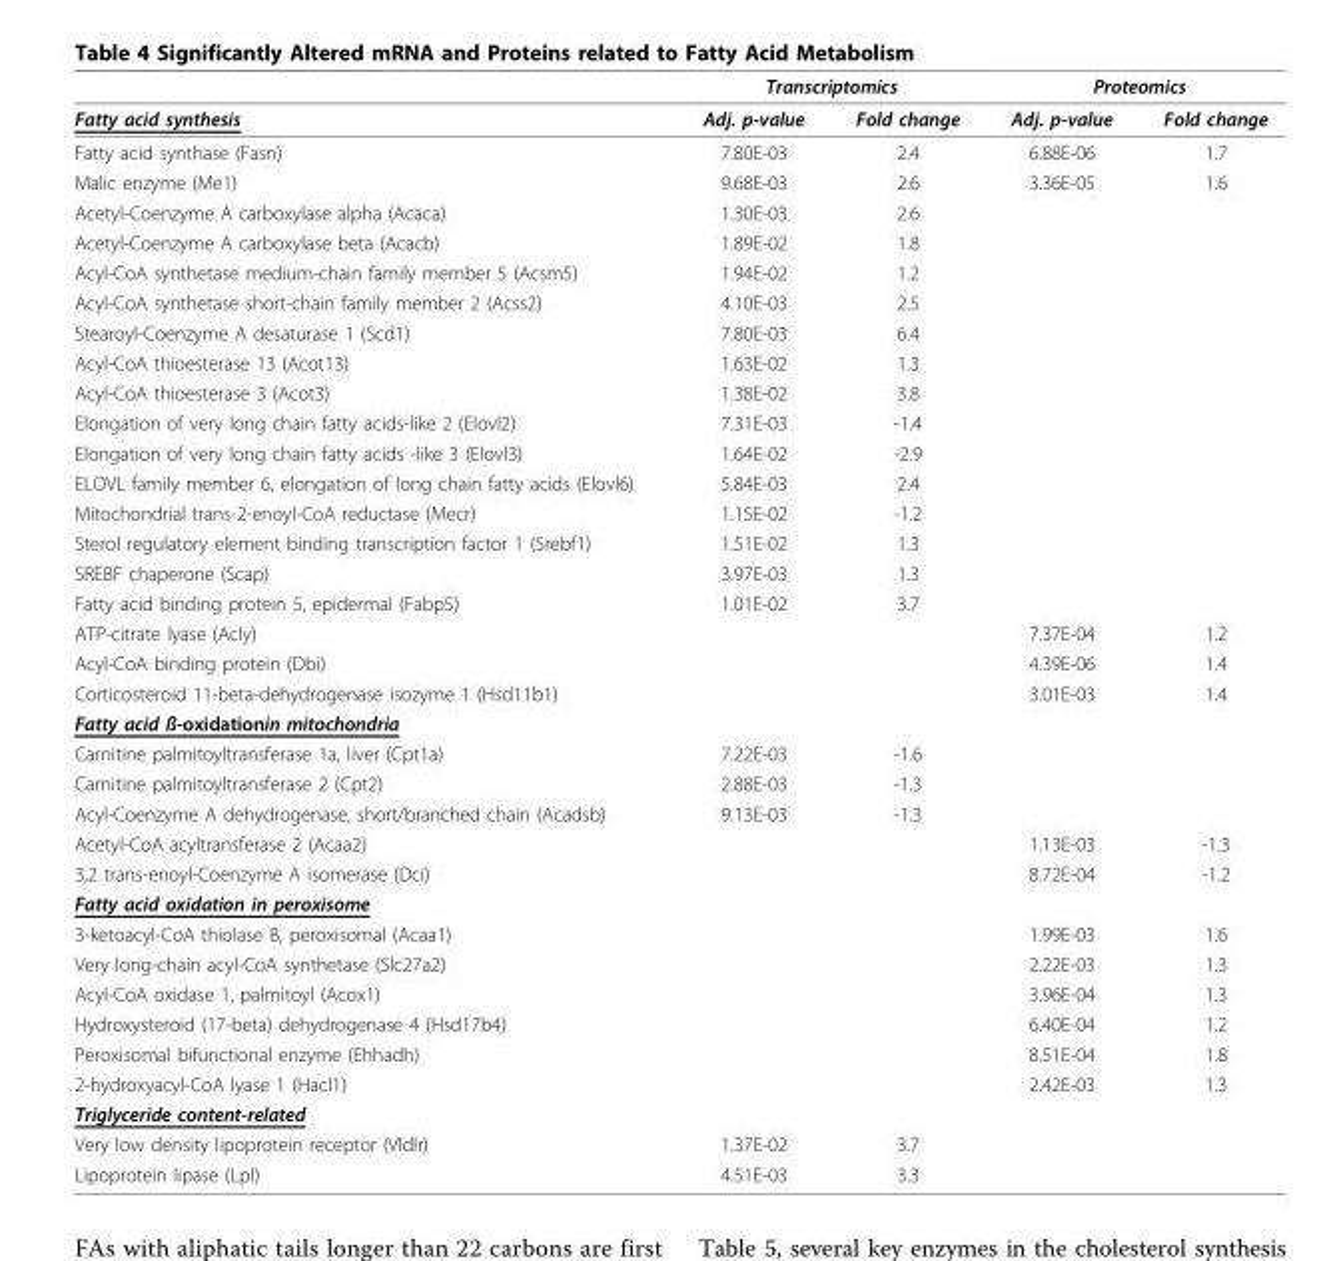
<table><thead><tr><td rowspan="2">Fatty acid synthesis</td><td colspan="2">Transcriptomics</td><td colspan="2">Proteomics</td></tr><tr><td>Adj. p-value</td><td>Fold change</td><td>Adj. p-value</td><td>Fold change</td></tr></thead><tbody><tr><td>Fatty acid synthase (Fasn)</td><td>7.80E-03</td><td>2.4</td><td>6.88E-06</td><td>1.7</td></tr><tr><td>Malic enzyme (Me1)</td><td>9.68E-03</td><td>2.6</td><td>3.36E-05</td><td>1.6</td></tr><tr><td>Acetyl-Coenzyme A carboxylase alpha (Acaca)</td><td>1.30E-03</td><td>2.6</td><td></td><td></td></tr><tr><td>Acetyl-Coenzyme A carboxylase beta (Acacb)</td><td>1.89E-02</td><td>1.8</td><td></td><td></td></tr><tr><td>Acyl-CoA synthetase medium-chain family member 5 (Acsm5)</td><td>1.94E-02</td><td>1.2</td><td></td><td></td></tr><tr><td>Acyl-CoA synthetase short-chain family member 2 (Acss2)</td><td>4.10E-03</td><td>2.5</td><td></td><td></td></tr><tr><td>Stearoyl-Coenzyme A desaturase 1 (Scd1)</td><td>7.80E-03</td><td>6.4</td><td></td><td></td></tr><tr><td>Acyl-CoA thioesterase 13 (Acot13)</td><td>1.63E-02</td><td>1.3</td><td></td><td></td></tr><tr><td>Acyl-CoA thioesterase 3 (Acot3)</td><td>1.38E-02</td><td>3.8</td><td></td><td></td></tr><tr><td>Elongation of very long chain fatty acids-like 2 (Elovl2)</td><td>7.31E-03</td><td>-1.4</td><td></td><td></td></tr><tr><td>Elongation of very long chain fatty acids -like 3 (Elovl3)</td><td>1.64E-02</td><td>-2.9</td><td></td><td></td></tr><tr><td>ELOVL family member 6, elongation of long chain fatty acids (Elovl6)</td><td>5.84E-03</td><td>2.4</td><td></td><td></td></tr><tr><td>Mitochondrial trans-2-enoyl-CoA reductase (Mecr)</td><td>1.15E-02</td><td>-1.2</td><td></td><td></td></tr><tr><td>Sterol regulatory element binding transcription factor 1 (Srebf1)</td><td>1.51E-02</td><td>1.3</td><td></td><td></td></tr><tr><td>SREBF chaperone (Scap)</td><td>3.97E-03</td><td>1.3</td><td></td><td></td></tr><tr><td>Fatty acid binding protein 5, epidermal (Fabp5)</td><td>1.01E-02</td><td>3.7</td><td></td><td></td></tr><tr><td>ATP-citrate lyase (Acly)</td><td></td><td></td><td>7.37E-04</td><td>1.2</td></tr><tr><td>Acyl-CoA binding protein (Dbi)</td><td></td><td></td><td>4.39E-06</td><td>1.4</td></tr><tr><td>Corticosteroid 11-beta-dehydrogenase isozyme 1 (Hsd11b1)</td><td></td><td></td><td>3.01E-03</td><td>1.4</td></tr><tr><td colspan="5">Fatty acid ß-oxidationin mitochondria</td></tr><tr><td>Carnitine palmitoyltransferase 1a, liver (Cpt1a)</td><td>7.22E-03</td><td>-1.6</td><td></td><td></td></tr><tr><td>Carnitine palmitoyltransferase 2 (Cpt2)</td><td>2.88E-03</td><td>-1.3</td><td></td><td></td></tr><tr><td>Acyl-Coenzyme A dehydrogenase, short/branched chain (Acadsb)</td><td>9.13E-03</td><td>-1.3</td><td></td><td></td></tr><tr><td>Acetyl-CoA acyltransferase 2 (Acaa2)</td><td></td><td></td><td>1.13E-03</td><td>-1.3</td></tr><tr><td>3,2 trans-enoyl-Coenzyme A isomerase (Dci)</td><td></td><td></td><td>8.72E-04</td><td>-1.2</td></tr><tr><td colspan="5">Fatty acid oxidation in peroxisome</td></tr><tr><td>3-ketoacyl-CoA thiolase B, peroxisomal (Acaa1)</td><td></td><td></td><td>1.99E-03</td><td>1.6</td></tr><tr><td>Very long-chain acyl-CoA synthetase (Slc27a2)</td><td></td><td></td><td>2.22E-03</td><td>1.3</td></tr><tr><td>Acyl-CoA oxidase 1, palmitoyl (Acox1)</td><td></td><td></td><td>3.96E-04</td><td>1.3</td></tr><tr><td>Hydroxysteroid (17-beta) dehydrogenase 4 (Hsd17b4)</td><td></td><td></td><td>6.40E-04</td><td>1.2</td></tr><tr><td>Peroxisomal bifunctional enzyme (Ehhadh)</td><td></td><td></td><td>8.51E-04</td><td>1.8</td></tr><tr><td>2-hydroxyacyl-CoA lyase 1 (Hacl1)</td><td></td><td></td><td>2.42E-03</td><td>1.3</td></tr><tr><td colspan="5">Triglyceride content-related</td></tr><tr><td>Very low density lipoprotein receptor (Vldlr)</td><td>1.37E-02</td><td>3.7</td><td></td><td></td></tr><tr><td>Lipoprotein lipase (Lpl)</td><td>4.51E-03</td><td>3.3</td><td></td><td></td></tr></tbody></table>